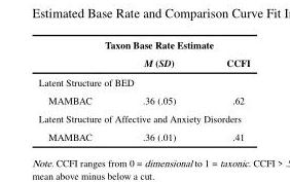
<table><thead><tr><td rowspan="2"></td><td rowspan="2">Taxon Base Rate Estimate M (SD)</td><td rowspan="2">CCFI</td></tr><tr></tr></thead><tbody><tr><td colspan="3">Latent Structure of BED</td></tr><tr><td>MAMBAC</td><td>.36 (.05)</td><td>.62</td></tr><tr><td colspan="3">Latent Structure of Affective and Anxiety Disorders</td></tr><tr><td>MAMBAC</td><td>.36 (.01)</td><td>.41</td></tr></tbody></table>